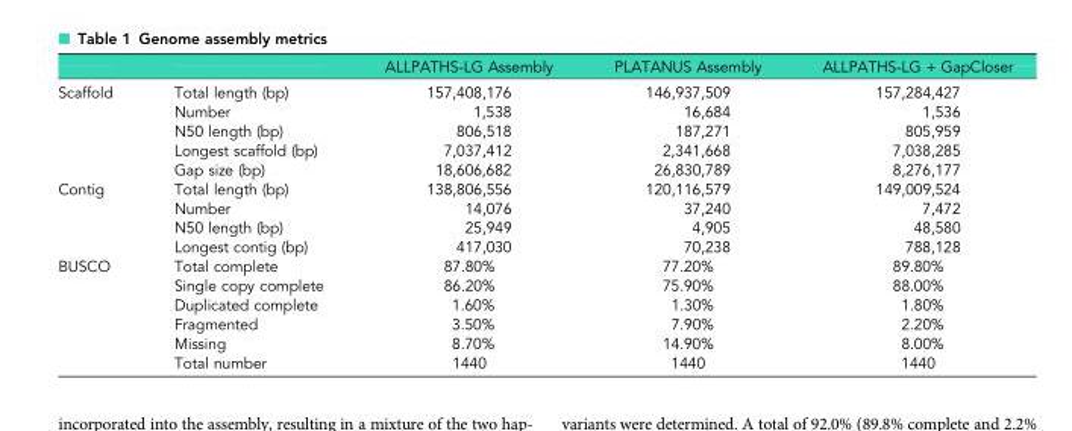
<table><thead><tr><td></td><td></td><td>ALLPATHS-LG Assembly</td><td>PLATANUS Assembly</td><td>ALLPATHS-LG + GapCloser</td></tr></thead><tbody><tr><td rowspan="5">Scaffold</td><td>Total length (bp)</td><td>157,408,176</td><td>146,937,509</td><td>157,284,427</td></tr><tr><td>Number</td><td>1,538</td><td>16,684</td><td>1,536</td></tr><tr><td>N50 length (bp)</td><td>806,518</td><td>187,271</td><td>805,959</td></tr><tr><td>Longest scaffold (bp)</td><td>7,037,412</td><td>2,341,668</td><td>7,038,285</td></tr><tr><td>Gap size (bp)</td><td>18,606,682</td><td>26,830,789</td><td>8,276,177</td></tr><tr><td rowspan="4">Contig</td><td>Total length (bp)</td><td>138,806,556</td><td>120,116,579</td><td>149,009,524</td></tr><tr><td>Number</td><td>14,076</td><td>37,240</td><td>7,472</td></tr><tr><td>N50 length (bp)</td><td>25,949</td><td>4,905</td><td>48,580</td></tr><tr><td>Longest contig (bp)</td><td>417,030</td><td>70,238</td><td>788,128</td></tr><tr><td rowspan="6">BUSCO</td><td>Total complete</td><td>87.80%</td><td>77.20%</td><td>89.80%</td></tr><tr><td>Single copy complete</td><td>86.20%</td><td>75.90%</td><td>88.00%</td></tr><tr><td>Duplicated complete</td><td>1.60%</td><td>1.30%</td><td>1.80%</td></tr><tr><td>Fragmented</td><td>3.50%</td><td>7.90%</td><td>2.20%</td></tr><tr><td>Missing</td><td>8.70%</td><td>14.90%</td><td>8.00%</td></tr><tr><td>Total number</td><td>1440</td><td>1440</td><td>1440</td></tr></tbody></table>